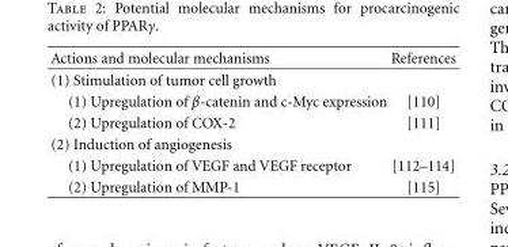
<table><thead><tr><td>Actions and molecular mechanisms</td><td>References</td></tr></thead><tbody><tr><td colspan="2">(1) Stimulation of tumor cell growth</td></tr><tr><td>(1) Upregulation of β-catenin and c-Myc expression</td><td>[110]</td></tr><tr><td>(2) Upregulation of COX-2</td><td>[111]</td></tr><tr><td colspan="2">(2) Induction of angiogenesis</td></tr><tr><td>(1) Upregulation of VEGF and VEGF receptor</td><td>[112–114]</td></tr><tr><td>(2) Upregulation of MMP-1</td><td>[115]</td></tr></tbody></table>